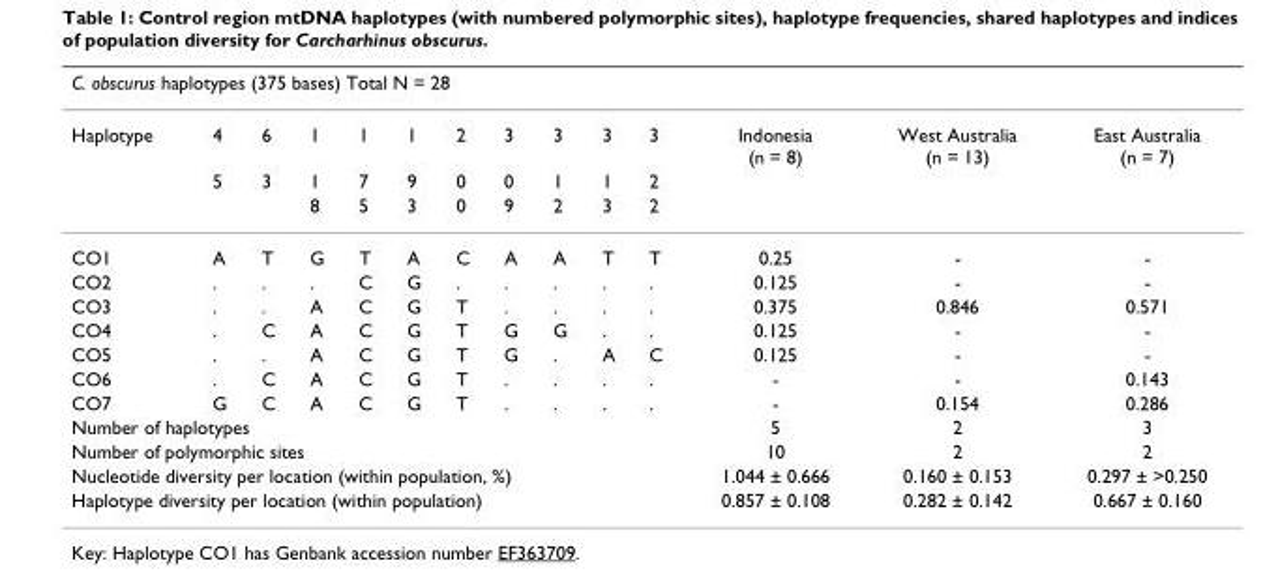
<table><thead><tr><td colspan="14">C. obscurus haplotypes (375 bases) Total N = 28</td></tr><tr><td>Haplotype</td><td>4</td><td>6</td><td>1</td><td>1</td><td>1</td><td>2</td><td>3</td><td>3</td><td>3</td><td>3</td><td>Indonesia (n = 8)</td><td>West Australia (n = 13)</td><td>East Australia (n = 7)</td></tr></thead><tbody><tr><td></td><td>5</td><td>3</td><td>1</td><td>7</td><td>9</td><td>0</td><td>0</td><td>1</td><td>1</td><td>2</td><td></td><td></td><td></td></tr><tr><td></td><td></td><td></td><td>8</td><td>5</td><td>3</td><td>0</td><td>9</td><td>2</td><td>3</td><td>2</td><td></td><td></td><td></td></tr><tr><td>CO1</td><td>A</td><td>T</td><td>G</td><td>T</td><td>A</td><td>C</td><td>A</td><td>A</td><td>T</td><td>T</td><td>0.25</td><td>-</td><td>-</td></tr><tr><td>CO2</td><td>.</td><td>.</td><td>.</td><td>C</td><td>G</td><td>.</td><td>.</td><td>.</td><td>.</td><td>.</td><td>0.125</td><td>-</td><td>-</td></tr><tr><td>CO3</td><td>.</td><td>.</td><td>A</td><td>C</td><td>G</td><td>T</td><td>.</td><td>.</td><td>.</td><td>.</td><td>0.375</td><td>0.846</td><td>0.571</td></tr><tr><td>CO4</td><td>.</td><td>C</td><td>A</td><td>C</td><td>G</td><td>T</td><td>G</td><td>G</td><td>.</td><td>.</td><td>0.125</td><td>-</td><td>-</td></tr><tr><td>CO5</td><td>.</td><td>.</td><td>A</td><td>C</td><td>G</td><td>T</td><td>G</td><td>.</td><td>A</td><td>C</td><td>0.125</td><td>-</td><td>-</td></tr><tr><td>CO6</td><td>.</td><td>C</td><td>A</td><td>C</td><td>G</td><td>T</td><td>.</td><td>.</td><td>.</td><td>.</td><td>-</td><td>-</td><td>0.143</td></tr><tr><td>CO7</td><td>G</td><td>C</td><td>A</td><td>C</td><td>G</td><td>T</td><td>.</td><td>.</td><td>.</td><td>.</td><td>-</td><td>0.154</td><td>0.286</td></tr><tr><td colspan="11">Number of haplotypes</td><td>5</td><td>2</td><td>3</td></tr><tr><td colspan="11">Number of polymorphic sites</td><td>10</td><td>2</td><td>2</td></tr><tr><td colspan="11">Nucleotide diversity per location (within population, %)</td><td>1.044 ± 0.666</td><td>0.160 ± 0.153</td><td>0.297 ± &gt;0.250</td></tr><tr><td colspan="11">Haplotype diversity per location (within population)</td><td>0.857 ± 0.108</td><td>0.282 ± 0.142</td><td>0.667 ± 0.160</td></tr></tbody></table>